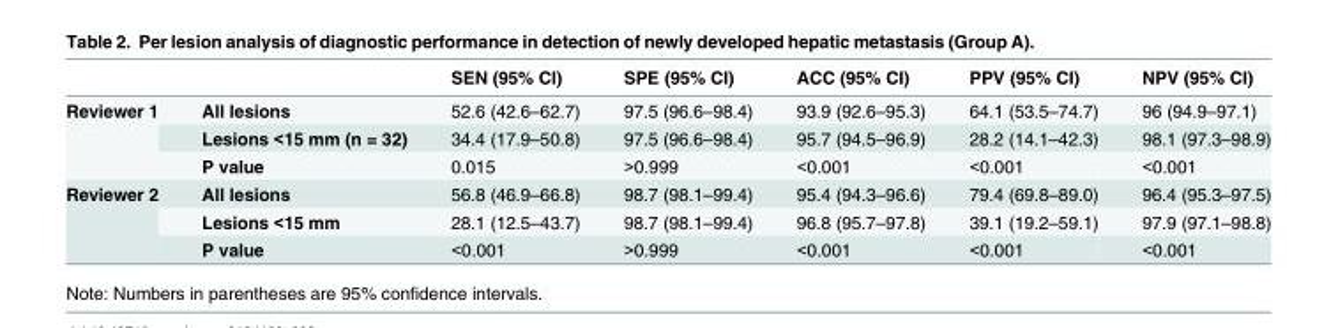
<table><thead><tr><td></td><td></td><td>SEN (95% CI)</td><td>SPE (95% CI)</td><td>ACC (95% CI)</td><td>PPV (95% CI)</td><td>NPV (95% CI)</td></tr></thead><tbody><tr><td rowspan="3">Reviewer 1</td><td>All lesions</td><td>52.6 (42.6–62.7)</td><td>97.5 (96.6–98.4)</td><td>93.9 (92.6–95.3)</td><td>64.1 (53.5–74.7)</td><td>96 (94.9–97.1)</td></tr><tr><td>Lesions &lt;15 mm (n = 32)</td><td>34.4 (17.9–50.8)</td><td>97.5 (96.6–98.4)</td><td>95.7 (94.5–96.9)</td><td>28.2 (14.1–42.3)</td><td>98.1 (97.3–98.9)</td></tr><tr><td>P value</td><td>0.015</td><td>&gt;0.999</td><td>&lt;0.001</td><td>&lt;0.001</td><td>&lt;0.001</td></tr><tr><td rowspan="3">Reviewer 2</td><td>All lesions</td><td>56.8 (46.9–66.8)</td><td>98.7 (98.1–99.4)</td><td>95.4 (94.3–96.6)</td><td>79.4 (69.8–89.0)</td><td>96.4 (95.3–97.5)</td></tr><tr><td>Lesions &lt;15 mm</td><td>28.1 (12.5–43.7)</td><td>98.7 (98.1–99.4)</td><td>96.8 (95.7–97.8)</td><td>39.1 (19.2–59.1)</td><td>97.9 (97.1–98.8)</td></tr><tr><td>P value</td><td>&lt;0.001</td><td>&gt;0.999</td><td>&lt;0.001</td><td>&lt;0.001</td><td>&lt;0.001</td></tr></tbody></table>